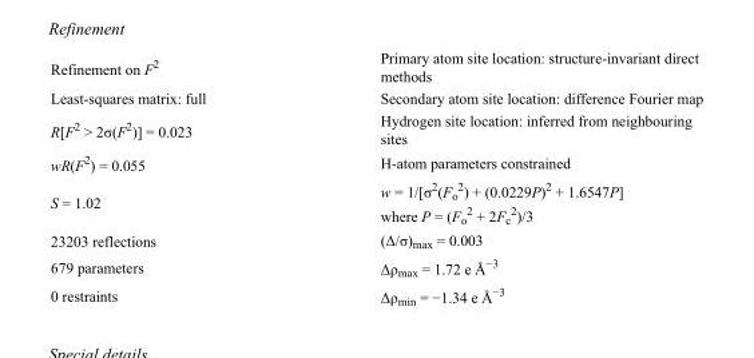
<table><tbody><tr><td>Refinement on F<sup>2</sup></td><td>Primary atom site location: structure-invariant direct methods</td></tr><tr><td>Least-squares matrix: full</td><td>Secondary atom site location: difference Fourier map</td></tr><tr><td>R[F<sup>2</sup> &gt; 2σ(F<sup>2</sup>)] = 0.023</td><td>Hydrogen site location: inferred from neighbouring sites</td></tr><tr><td>wR(F<sup>2</sup>) = 0.055</td><td>H-atom parameters constrained</td></tr><tr><td>S = 1.02</td><td>w = 1/[σ<sup>2</sup>(F<sub>o</sub> <sup>2</sup>) + (0.0229P)<sup>2</sup> + 1.6547P] where P = (F<sub>o</sub> <sup>2</sup> + 2F<sub>c</sub> <sup>2</sup>)/3</td></tr><tr><td>23203 reflections</td><td>(Δ/σ)<sub>max</sub> = 0.003</td></tr><tr><td>679 parameters</td><td>Δρ<sub>max</sub> = 1.72 e Å<sup>−3</sup></td></tr><tr><td>0 restraints</td><td>Δρ<sub>min</sub> = −1.34 e Å<sup>−3</sup></td></tr></tbody></table>